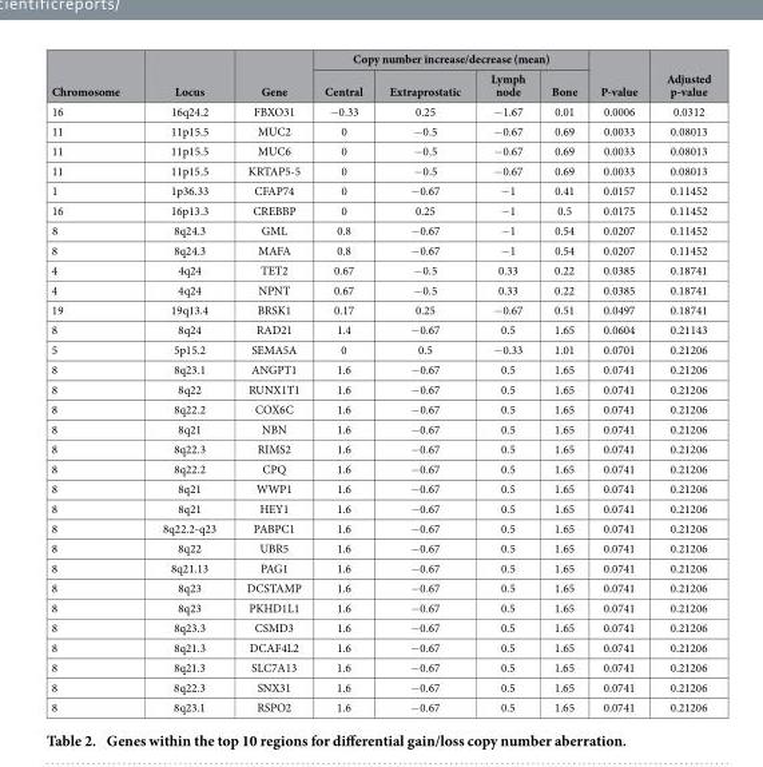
<table><thead><tr><td rowspan="2">Chromosome</td><td rowspan="2">Locus</td><td rowspan="2">Gene</td><td colspan="4">Copy number increase/decrease (mean)</td><td rowspan="2">P-value</td><td rowspan="2">Adjusted p-value</td></tr><tr><td>Central</td><td>Extraprostatic</td><td>Lymph node</td><td>Bone</td></tr></thead><tbody><tr><td>16</td><td>16q24.2</td><td>FBXO31</td><td>− 0.33</td><td>0.25</td><td>− 1.67</td><td>0.01</td><td>0.0006</td><td>0.0312</td></tr><tr><td>11</td><td>11p15.5</td><td>MUC2</td><td>0</td><td>− 0.5</td><td>− 0.67</td><td>0.69</td><td>0.0033</td><td>0.08013</td></tr><tr><td>11</td><td>11p15.5</td><td>MUC6</td><td>0</td><td>− 0.5</td><td>− 0.67</td><td>0.69</td><td>0.0033</td><td>0.08013</td></tr><tr><td>11</td><td>11p15.5</td><td>KRTAP5-5</td><td>0</td><td>− 0.5</td><td>− 0.67</td><td>0.69</td><td>0.0033</td><td>0.08013</td></tr><tr><td>1</td><td>1p36.33</td><td>CFAP74</td><td>0</td><td>− 0.67</td><td>− 1</td><td>0.41</td><td>0.0157</td><td>0.11452</td></tr><tr><td>16</td><td>16p13.3</td><td>CREBBP</td><td>0</td><td>0.25</td><td>− 1</td><td>0.5</td><td>0.0175</td><td>0.11452</td></tr><tr><td>8</td><td>8q24.3</td><td>GML</td><td>0.8</td><td>− 0.67</td><td>− 1</td><td>0.54</td><td>0.0207</td><td>0.11452</td></tr><tr><td>8</td><td>8q24.3</td><td>MAFA</td><td>0.8</td><td>− 0.67</td><td>− 1</td><td>0.54</td><td>0.0207</td><td>0.11452</td></tr><tr><td>4</td><td>4q24</td><td>TET2</td><td>0.67</td><td>− 0.5</td><td>0.33</td><td>0.22</td><td>0.0385</td><td>0.18741</td></tr><tr><td>4</td><td>4q24</td><td>NPNT</td><td>0.67</td><td>− 0.5</td><td>0.33</td><td>0.22</td><td>0.0385</td><td>0.18741</td></tr><tr><td>19</td><td>19q13.4</td><td>BRSK1</td><td>0.17</td><td>0.25</td><td>− 0.67</td><td>0.51</td><td>0.0497</td><td>0.18741</td></tr><tr><td>8</td><td>8q24</td><td>RAD21</td><td>1.4</td><td>− 0.67</td><td>0.5</td><td>1.65</td><td>0.0604</td><td>0.21143</td></tr><tr><td>5</td><td>5p15.2</td><td>SEMA5A</td><td>0</td><td>0.5</td><td>− 0.33</td><td>1.01</td><td>0.0701</td><td>0.21206</td></tr><tr><td>8</td><td>8q23.1</td><td>ANGPT1</td><td>1.6</td><td>− 0.67</td><td>0.5</td><td>1.65</td><td>0.0741</td><td>0.21206</td></tr><tr><td>8</td><td>8q22</td><td>RUNX1T1</td><td>1.6</td><td>− 0.67</td><td>0.5</td><td>1.65</td><td>0.0741</td><td>0.21206</td></tr><tr><td>8</td><td>8q22.2</td><td>COX6C</td><td>1.6</td><td>− 0.67</td><td>0.5</td><td>1.65</td><td>0.0741</td><td>0.21206</td></tr><tr><td>8</td><td>8q21</td><td>NBN</td><td>1.6</td><td>− 0.67</td><td>0.5</td><td>1.65</td><td>0.0741</td><td>0.21206</td></tr><tr><td>8</td><td>8q22.3</td><td>RIMS2</td><td>1.6</td><td>− 0.67</td><td>0.5</td><td>1.65</td><td>0.0741</td><td>0.21206</td></tr><tr><td>8</td><td>8q22.2</td><td>CPQ</td><td>1.6</td><td>− 0.67</td><td>0.5</td><td>1.65</td><td>0.0741</td><td>0.21206</td></tr><tr><td>8</td><td>8q21</td><td>WWP1</td><td>1.6</td><td>− 0.67</td><td>0.5</td><td>1.65</td><td>0.0741</td><td>0.21206</td></tr><tr><td>8</td><td>8q21</td><td>HEY1</td><td>1.6</td><td>− 0.67</td><td>0.5</td><td>1.65</td><td>0.0741</td><td>0.21206</td></tr><tr><td>8</td><td>8q22.2-q23</td><td>PABPC1</td><td>1.6</td><td>− 0.67</td><td>0.5</td><td>1.65</td><td>0.0741</td><td>0.21206</td></tr><tr><td>8</td><td>8q22</td><td>UBR5</td><td>1.6</td><td>− 0.67</td><td>0.5</td><td>1.65</td><td>0.0741</td><td>0.21206</td></tr><tr><td>8</td><td>8q21.13</td><td>PAG1</td><td>1.6</td><td>− 0.67</td><td>0.5</td><td>1.65</td><td>0.0741</td><td>0.21206</td></tr><tr><td>8</td><td>8q23</td><td>DCSTAMP</td><td>1.6</td><td>− 0.67</td><td>0.5</td><td>1.65</td><td>0.0741</td><td>0.21206</td></tr><tr><td>8</td><td>8q23</td><td>PKHD1L1</td><td>1.6</td><td>− 0.67</td><td>0.5</td><td>1.65</td><td>0.0741</td><td>0.21206</td></tr><tr><td>8</td><td>8q23.3</td><td>CSMD3</td><td>1.6</td><td>− 0.67</td><td>0.5</td><td>1.65</td><td>0.0741</td><td>0.21206</td></tr><tr><td>8</td><td>8q21.3</td><td>DCAF4L2</td><td>1.6</td><td>− 0.67</td><td>0.5</td><td>1.65</td><td>0.0741</td><td>0.21206</td></tr><tr><td>8</td><td>8q21.3</td><td>SLC7A13</td><td>1.6</td><td>− 0.67</td><td>0.5</td><td>1.65</td><td>0.0741</td><td>0.21206</td></tr><tr><td>8</td><td>8q22.3</td><td>SNX31</td><td>1.6</td><td>− 0.67</td><td>0.5</td><td>1.65</td><td>0.0741</td><td>0.21206</td></tr><tr><td>8</td><td>8q23.1</td><td>RSPO2</td><td>1.6</td><td>− 0.67</td><td>0.5</td><td>1.65</td><td>0.0741</td><td>0.21206</td></tr></tbody></table>